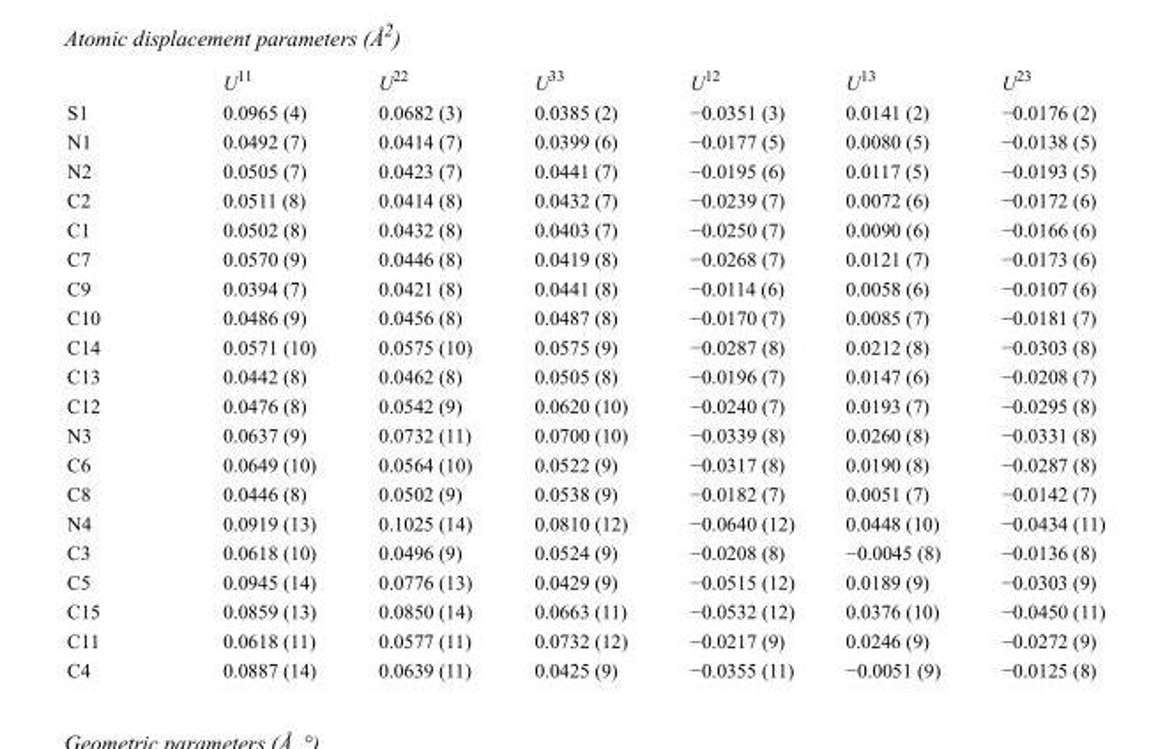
<table><thead><tr><td></td><td>U<sup>11</sup></td><td>U<sup>22</sup></td><td>U<sup>33</sup></td><td>U<sup>12</sup></td><td>U<sup>13</sup></td><td>U<sup>23</sup></td></tr></thead><tbody><tr><td>S1</td><td>0.0965 (4)</td><td>0.0682 (3)</td><td>0.0385 (2)</td><td>−0.0351 (3)</td><td>0.0141 (2)</td><td>−0.0176 (2)</td></tr><tr><td>N1</td><td>0.0492 (7)</td><td>0.0414 (7)</td><td>0.0399 (6)</td><td>−0.0177 (5)</td><td>0.0080 (5)</td><td>−0.0138 (5)</td></tr><tr><td>N2</td><td>0.0505 (7)</td><td>0.0423 (7)</td><td>0.0441 (7)</td><td>−0.0195 (6)</td><td>0.0117 (5)</td><td>−0.0193 (5)</td></tr><tr><td>C2</td><td>0.0511 (8)</td><td>0.0414 (8)</td><td>0.0432 (7)</td><td>−0.0239 (7)</td><td>0.0072 (6)</td><td>−0.0172 (6)</td></tr><tr><td>C1</td><td>0.0502 (8)</td><td>0.0432 (8)</td><td>0.0403 (7)</td><td>−0.0250 (7)</td><td>0.0090 (6)</td><td>−0.0166 (6)</td></tr><tr><td>C7</td><td>0.0570 (9)</td><td>0.0446 (8)</td><td>0.0419 (8)</td><td>−0.0268 (7)</td><td>0.0121 (7)</td><td>−0.0173 (6)</td></tr><tr><td>C9</td><td>0.0394 (7)</td><td>0.0421 (8)</td><td>0.0441 (8)</td><td>−0.0114 (6)</td><td>0.0058 (6)</td><td>−0.0107 (6)</td></tr><tr><td>C10</td><td>0.0486 (9)</td><td>0.0456 (8)</td><td>0.0487 (8)</td><td>−0.0170 (7)</td><td>0.0085 (7)</td><td>−0.0181 (7)</td></tr><tr><td>C14</td><td>0.0571 (10)</td><td>0.0575 (10)</td><td>0.0575 (9)</td><td>−0.0287 (8)</td><td>0.0212 (8)</td><td>−0.0303 (8)</td></tr><tr><td>C13</td><td>0.0442 (8)</td><td>0.0462 (8)</td><td>0.0505 (8)</td><td>−0.0196 (7)</td><td>0.0147 (6)</td><td>−0.0208 (7)</td></tr><tr><td>C12</td><td>0.0476 (8)</td><td>0.0542 (9)</td><td>0.0620 (10)</td><td>−0.0240 (7)</td><td>0.0193 (7)</td><td>−0.0295 (8)</td></tr><tr><td>N3</td><td>0.0637 (9)</td><td>0.0732 (11)</td><td>0.0700 (10)</td><td>−0.0339 (8)</td><td>0.0260 (8)</td><td>−0.0331 (8)</td></tr><tr><td>C6</td><td>0.0649 (10)</td><td>0.0564 (10)</td><td>0.0522 (9)</td><td>−0.0317 (8)</td><td>0.0190 (8)</td><td>−0.0287 (8)</td></tr><tr><td>C8</td><td>0.0446 (8)</td><td>0.0502 (9)</td><td>0.0538 (9)</td><td>−0.0182 (7)</td><td>0.0051 (7)</td><td>−0.0142 (7)</td></tr><tr><td>N4</td><td>0.0919 (13)</td><td>0.1025 (14)</td><td>0.0810 (12)</td><td>−0.0640 (12)</td><td>0.0448 (10)</td><td>−0.0434 (11)</td></tr><tr><td>C3</td><td>0.0618 (10)</td><td>0.0496 (9)</td><td>0.0524 (9)</td><td>−0.0208 (8)</td><td>−0.0045 (8)</td><td>−0.0136 (8)</td></tr><tr><td>C5</td><td>0.0945 (14)</td><td>0.0776 (13)</td><td>0.0429 (9)</td><td>−0.0515 (12)</td><td>0.0189 (9)</td><td>−0.0303 (9)</td></tr><tr><td>C15</td><td>0.0859 (13)</td><td>0.0850 (14)</td><td>0.0663 (11)</td><td>−0.0532 (12)</td><td>0.0376 (10)</td><td>−0.0450 (11)</td></tr><tr><td>C11</td><td>0.0618 (11)</td><td>0.0577 (11)</td><td>0.0732 (12)</td><td>−0.0217 (9)</td><td>0.0246 (9)</td><td>−0.0272 (9)</td></tr><tr><td>C4</td><td>0.0887 (14)</td><td>0.0639 (11)</td><td>0.0425 (9)</td><td>−0.0355 (11)</td><td>−0.0051 (9)</td><td>−0.0125 (8)</td></tr></tbody></table>